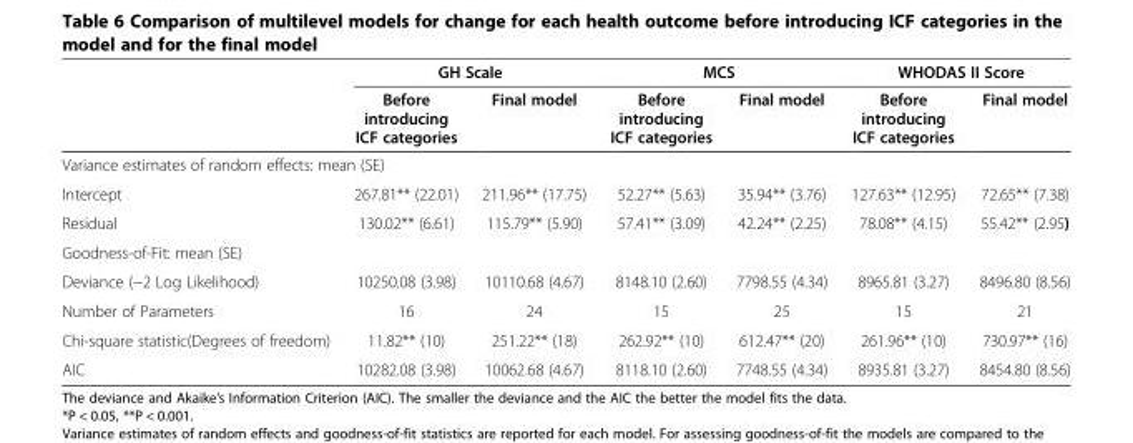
<table><thead><tr><td rowspan="2"></td><td colspan="2">GH Scale</td><td colspan="2">MCS</td><td colspan="2">WHODAS II Score</td></tr><tr><td>Before introducing ICF categories</td><td>Final model</td><td>Before introducing ICF categories</td><td>Final model</td><td>Before introducing ICF categories</td><td>Final model</td></tr></thead><tbody><tr><td colspan="7">Variance estimates of random effects: mean (SE)</td></tr><tr><td>Intercept</td><td>267.81** (22.01)</td><td>211.96** (17.75)</td><td>52.27** (5.63)</td><td>35.94** (3.76)</td><td>127.63** (12.95)</td><td>72.65** (7.38)</td></tr><tr><td>Residual</td><td>130.02** (6.61)</td><td>115.79** (5.90)</td><td>57.41** (3.09)</td><td>42.24** (2.25)</td><td>78.08** (4.15)</td><td>55.42** (2.95)</td></tr><tr><td colspan="7">Goodness-of-Fit: mean (SE)</td></tr><tr><td>Deviance (−2 Log Likelihood)</td><td>10250.08 (3.98)</td><td>10110.68 (4.67)</td><td>8148.10 (2.60)</td><td>7798.55 (4.34)</td><td>8965.81 (3.27)</td><td>8496.80 (8.56)</td></tr><tr><td>Number of Parameters</td><td>16</td><td>24</td><td>15</td><td>25</td><td>15</td><td>21</td></tr><tr><td>Chi-square statistic(Degrees of freedom)</td><td>11.82** (10)</td><td>251.22** (18)</td><td>262.92** (10)</td><td>612.47** (20)</td><td>261.96** (10)</td><td>730.97** (16)</td></tr><tr><td>AIC</td><td>10282.08 (3.98)</td><td>10062.68 (4.67)</td><td>8118.10 (2.60)</td><td>7748.55 (4.34)</td><td>8935.81 (3.27)</td><td>8454.80 (8.56)</td></tr></tbody></table>